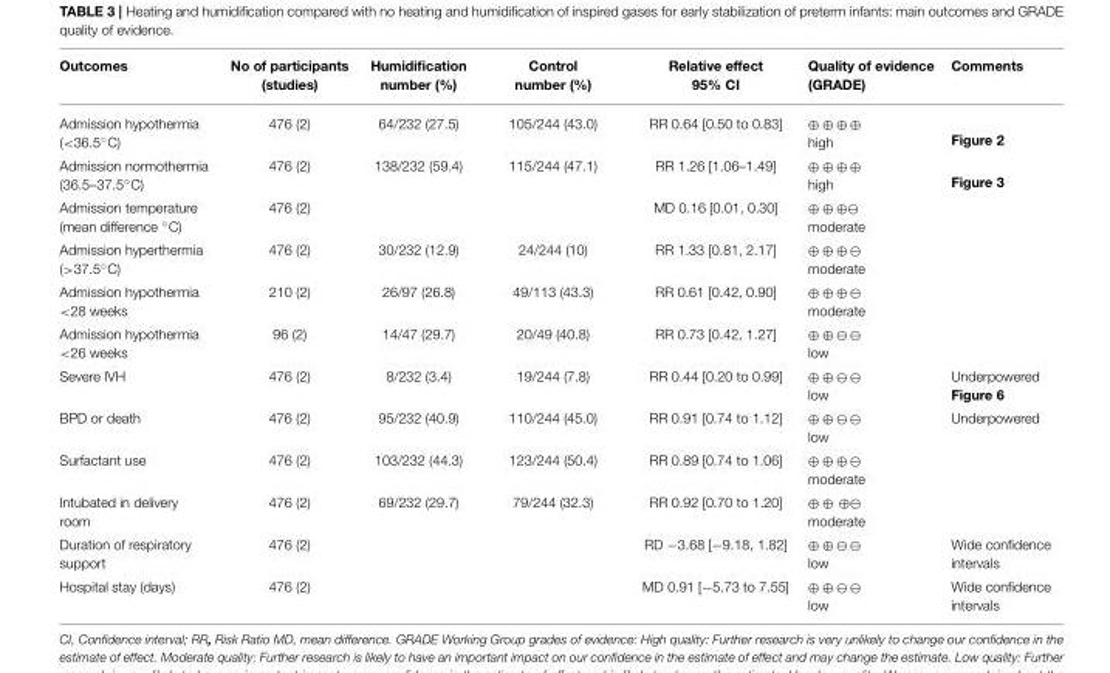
<table><thead><tr><td>Outcomes</td><td>No of participants (studies)</td><td>Humidification number (%)</td><td>Control number (%)</td><td>Relative effect 95% CI</td><td>Quality of evidence (GRADE)</td><td>Comments</td></tr></thead><tbody><tr><td>Admission hypothermia (&lt;36.5◦C)</td><td>476 (2)</td><td>64/232 (27.5)</td><td>105/244 (43.0)</td><td>RR 0.64 [0.50 to 0.83]</td><td>⊕ ⊕ ⊕ ⊕ high</td><td>Figure 2</td></tr><tr><td>Admission normothermia (36.5–37.5◦C)</td><td>476 (2)</td><td>138/232 (59.4)</td><td>115/244 (47.1)</td><td>RR 1.26 [1.06–1.49]</td><td>⊕ ⊕ ⊕ ⊕ high</td><td>Figure 3</td></tr><tr><td>Admission temperature (mean difference ◦C)</td><td>476 (2)</td><td></td><td></td><td>MD 0.16 [0.01, 0.30]</td><td>⊕ ⊕ ⊕⊖ moderate</td><td></td></tr><tr><td>Admission hyperthermia (&gt;37.5◦C)</td><td>476 (2)</td><td>30/232 (12.9)</td><td>24/244 (10)</td><td>RR 1.33 [0.81, 2.17]</td><td>⊕ ⊕ ⊕ ⊖ moderate</td><td></td></tr><tr><td>Admission hypothermia &lt;28 weeks</td><td>210 (2)</td><td>26/97 (26.8)</td><td>49/113 (43.3)</td><td>RR 0.61 [0.42, 0.90]</td><td>⊕ ⊕ ⊕ ⊖ moderate</td><td></td></tr><tr><td>Admission hypothermia &lt;26 weeks</td><td>96 (2)</td><td>14/47 (29.7)</td><td>20/49 (40.8)</td><td>RR 0.73 [0.42, 1.27]</td><td>⊕ ⊕ ⊖ ⊖ low</td><td></td></tr><tr><td>Severe IVH</td><td>476 (2)</td><td>8/232 (3.4)</td><td>19/244 (7.8)</td><td>RR 0.44 [0.20 to 0.99]</td><td>⊕ ⊕ ⊖ ⊖ low</td><td>Underpowered Figure 6</td></tr><tr><td>BPD or death</td><td>476 (2)</td><td>95/232 (40.9)</td><td>110/244 (45.0)</td><td>RR 0.91 [0.74 to 1.12]</td><td>⊕ ⊕ ⊖ ⊖ low</td><td>Underpowered</td></tr><tr><td>Surfactant use</td><td>476 (2)</td><td>103/232 (44.3)</td><td>123/244 (50.4)</td><td>RR 0.89 [0.74 to 1.06]</td><td>⊕ ⊕ ⊕ ⊖ moderate</td><td></td></tr><tr><td>Intubated in delivery room</td><td>476 (2)</td><td>69/232 (29.7)</td><td>79/244 (32.3)</td><td>RR 0.92 [0.70 to 1.20]</td><td>⊕ ⊕ ⊕⊖ moderate</td><td></td></tr><tr><td>Duration of respiratory support</td><td>476 (2)</td><td></td><td></td><td>RD −3.68 [−9.18, 1.82]</td><td>⊕ ⊕ ⊖ ⊖ low</td><td>Wide confidence intervals</td></tr><tr><td>Hospital stay (days)</td><td>476 (2)</td><td></td><td></td><td>MD 0.91 [−5.73 to 7.55]</td><td>⊕ ⊕ ⊖ ⊖ low</td><td>Wide confidence intervals</td></tr></tbody></table>